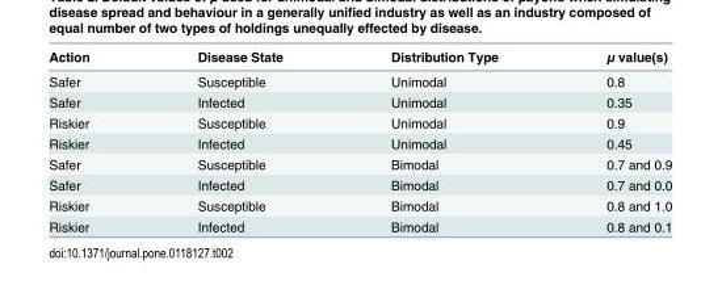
<table><thead><tr><td>Action</td><td>Disease State</td><td>Distribution Type</td><td>μ value(s)</td></tr></thead><tbody><tr><td>Safer</td><td>Susceptible</td><td>Unimodal</td><td>0.8</td></tr><tr><td>Safer</td><td>Infected</td><td>Unimodal</td><td>0.35</td></tr><tr><td>Riskier</td><td>Susceptible</td><td>Unimodal</td><td>0.9</td></tr><tr><td>Riskier</td><td>Infected</td><td>Unimodal</td><td>0.45</td></tr><tr><td>Safer</td><td>Susceptible</td><td>Bimodal</td><td>0.7 and 0.9</td></tr><tr><td>Safer</td><td>Infected</td><td>Bimodal</td><td>0.7 and 0.0</td></tr><tr><td>Riskier</td><td>Susceptible</td><td>Bimodal</td><td>0.8 and 1.0</td></tr><tr><td>Riskier</td><td>Infected</td><td>Bimodal</td><td>0.8 and 0.1</td></tr></tbody></table>